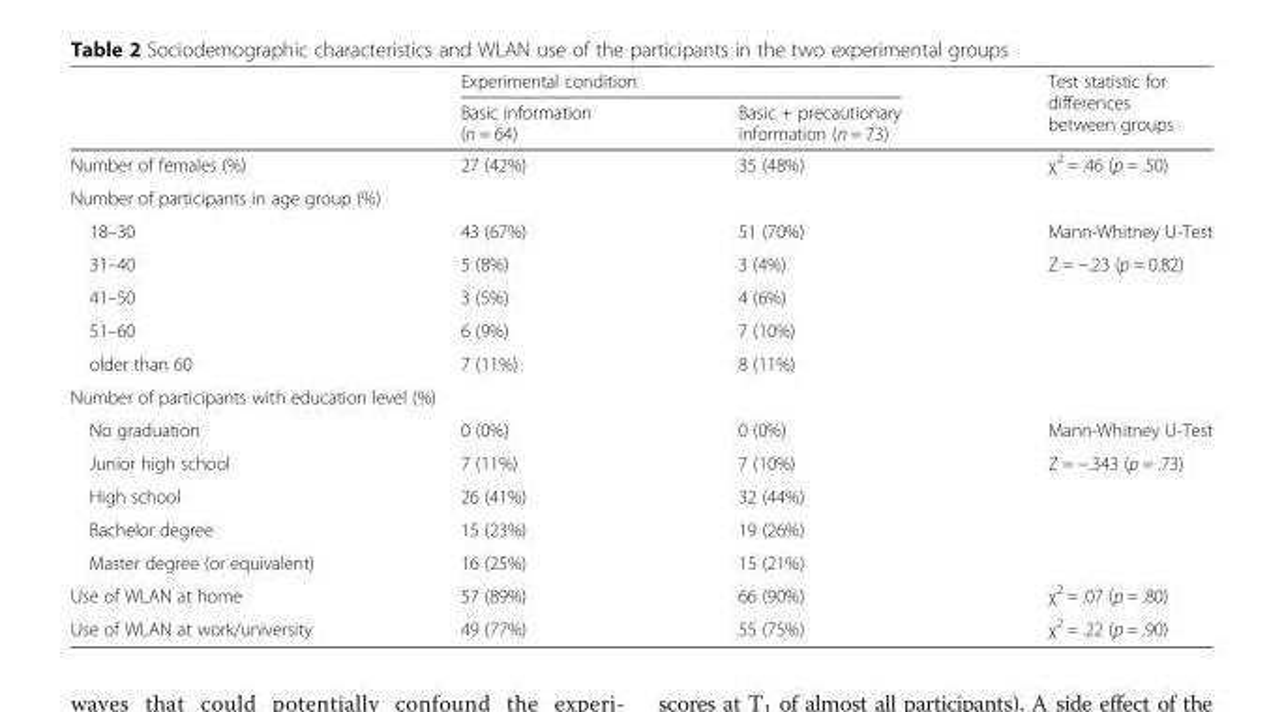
<table><thead><tr><td rowspan="2"></td><td colspan="2">Experimental condition</td><td rowspan="2">Test statistic for differences between groups</td></tr><tr><td>Basic information (n = 64)</td><td>Basic + precautionary information (n = 73)</td></tr></thead><tbody><tr><td>Number of females (%)</td><td>27 (42%)</td><td>35 (48%)</td><td>χ<sup>2</sup> = .46 (p = .50)</td></tr><tr><td colspan="4">Number of participants in age group (%)</td></tr><tr><td>18–30</td><td>43 (67%)</td><td>51 (70%)</td><td>Mann-Whitney U-Test</td></tr><tr><td>31–40</td><td>5 (8%)</td><td>3 (4%)</td><td>Z = −.23 (p = 0.82)</td></tr><tr><td>41–50</td><td>3 (5%)</td><td>4 (6%)</td><td></td></tr><tr><td>51–60</td><td>6 (9%)</td><td>7 (10%)</td><td></td></tr><tr><td>older than 60</td><td>7 (11%)</td><td>8 (11%)</td><td></td></tr><tr><td colspan="4">Number of participants with education level (%)</td></tr><tr><td>No graduation</td><td>0 (0%)</td><td>0 (0%)</td><td>Mann-Whitney U-Test</td></tr><tr><td>Junior high school</td><td>7 (11%)</td><td>7 (10%)</td><td>Z = −.343 (p = .73)</td></tr><tr><td>High school</td><td>26 (41%)</td><td>32 (44%)</td><td></td></tr><tr><td>Bachelor degree</td><td>15 (23%)</td><td>19 (26%)</td><td></td></tr><tr><td>Master degree (or equivalent)</td><td>16 (25%)</td><td>15 (21%)</td><td></td></tr><tr><td>Use of WLAN at home</td><td>57 (89%)</td><td>66 (90%)</td><td>χ<sup>2</sup> = .07 (p = .80)</td></tr><tr><td>Use of WLAN at work/university</td><td>49 (77%)</td><td>55 (75%)</td><td>χ<sup>2</sup> = .22 (p = .90)</td></tr></tbody></table>